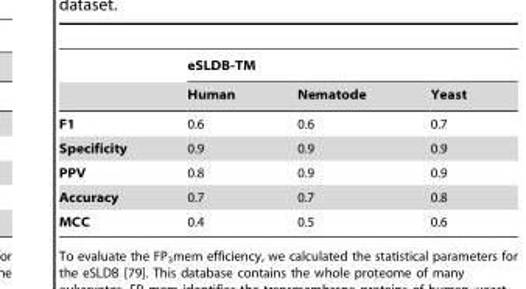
<table><thead><tr><td rowspan="2"></td><td colspan="3">eSLDB-TM</td></tr><tr><td>Human</td><td>Nematode</td><td>Yeast</td></tr></thead><tbody><tr><td>F1</td><td>0.6</td><td>0.6</td><td>0.7</td></tr><tr><td>Specificity</td><td>0.9</td><td>0.9</td><td>0.9</td></tr><tr><td>PPV</td><td>0.8</td><td>0.9</td><td>0.9</td></tr><tr><td>Accuracy</td><td>0.7</td><td>0.7</td><td>0.8</td></tr><tr><td>MCC</td><td>0.4</td><td>0.5</td><td>0.6</td></tr></tbody></table>